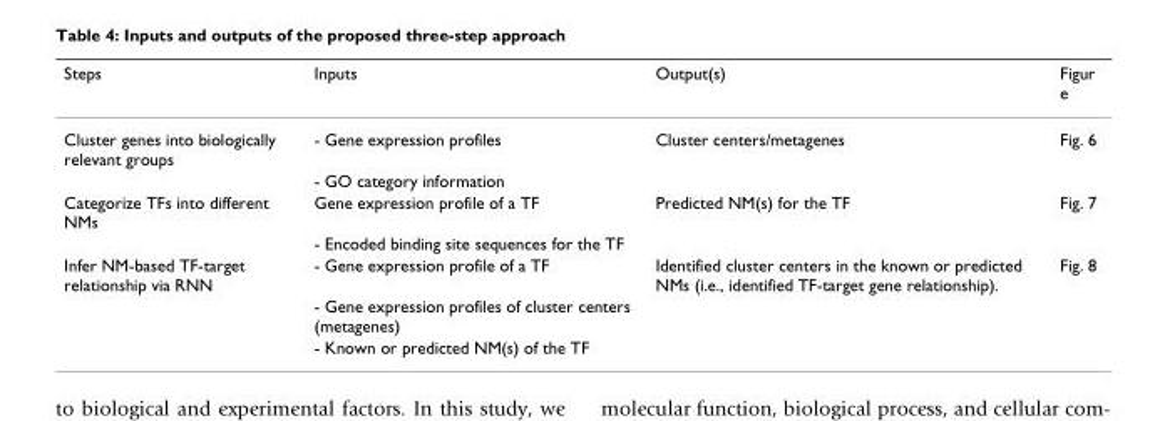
<table><thead><tr><td>Steps</td><td>Inputs</td><td>Output(s)</td><td>Figur e</td></tr></thead><tbody><tr><td rowspan="2">Cluster genes into biologically relevant groups</td><td>- Gene expression profiles</td><td>Cluster centers/metagenes</td><td>Fig. 6</td></tr><tr><td>- GO category information</td><td></td><td></td></tr><tr><td rowspan="2">Categorize TFs into different NMs</td><td>Gene expression profile of a TF</td><td>Predicted NM(s) for the TF</td><td>Fig. 7</td></tr><tr><td>- Encoded binding site sequences for the TF</td><td></td><td></td></tr><tr><td rowspan="3">Infer NM-based TF-target relationship via RNN</td><td>- Gene expression profile of a TF</td><td>Identified cluster centers in the known or predicted NMs (i.e., identified TF-target gene relationship).</td><td>Fig. 8</td></tr><tr><td>- Gene expression profiles of cluster centers (metagenes)</td><td></td><td></td></tr><tr><td>- Known or predicted NM(s) of the TF</td><td></td><td></td></tr></tbody></table>